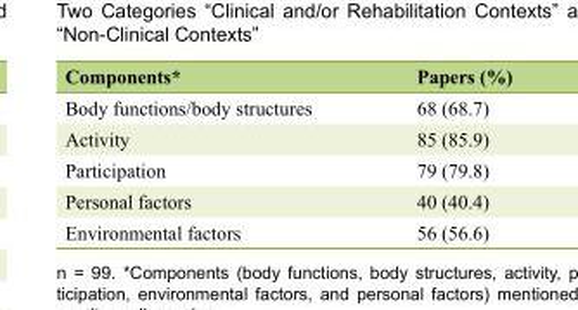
<table><thead><tr><td>Components*</td><td>Papers (%)</td></tr></thead><tbody><tr><td>Body functions/body structures</td><td>68 (68.7)</td></tr><tr><td>Activity</td><td>85 (85.9)</td></tr><tr><td>Participation</td><td>79 (79.8)</td></tr><tr><td>Personal factors</td><td>40 (40.4)</td></tr><tr><td>Environmental factors</td><td>56 (56.6)</td></tr></tbody></table>